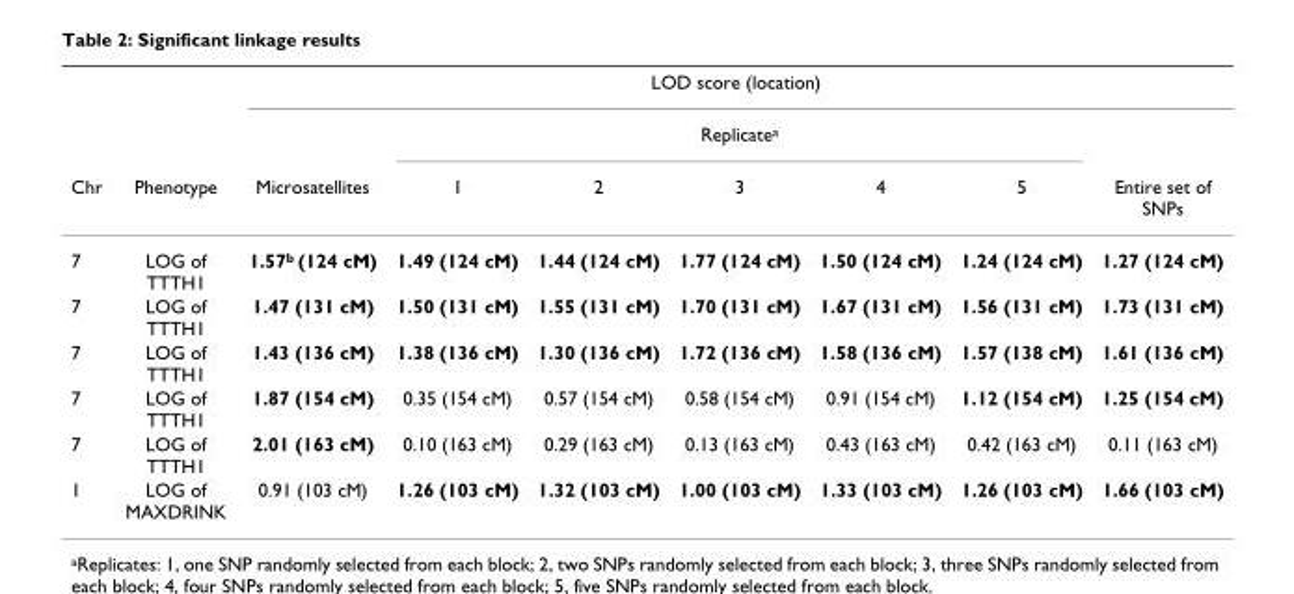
<table><thead><tr><td rowspan="3">Chr</td><td rowspan="3">Phenotype</td><td colspan="7">LOD score (location)</td></tr><tr><td rowspan="2">Microsatellites</td><td colspan="5">Replicatea</td><td rowspan="2">Entire set of SNPs</td></tr><tr><td>1</td><td>2</td><td>3</td><td>4</td><td>5</td></tr></thead><tbody><tr><td>7</td><td>LOG of TTTH1</td><td>1.57b (124 cM)</td><td>1.49 (124 cM)</td><td>1.44 (124 cM)</td><td>1.77 (124 cM)</td><td>1.50 (124 cM)</td><td>1.24 (124 cM)</td><td>1.27 (124 cM)</td></tr><tr><td>7</td><td>LOG of TTTH1</td><td>1.47 (131 cM)</td><td>1.50 (131 cM)</td><td>1.55 (131 cM)</td><td>1.70 (131 cM)</td><td>1.67 (131 cM)</td><td>1.56 (131 cM)</td><td>1.73 (131 cM)</td></tr><tr><td>7</td><td>LOG of TTTH1</td><td>1.43 (136 cM)</td><td>1.38 (136 cM)</td><td>1.30 (136 cM)</td><td>1.72 (136 cM)</td><td>1.58 (136 cM)</td><td>1.57 (138 cM)</td><td>1.61 (136 cM)</td></tr><tr><td>7</td><td>LOG of TTTH1</td><td>1.87 (154 cM)</td><td>0.35 (154 cM)</td><td>0.57 (154 cM)</td><td>0.58 (154 cM)</td><td>0.91 (154 cM)</td><td>1.12 (154 cM)</td><td>1.25 (154 cM)</td></tr><tr><td>7</td><td>LOG of TTTH1</td><td>2.01 (163 cM)</td><td>0.10 (163 cM)</td><td>0.29 (163 cM)</td><td>0.13 (163 cM)</td><td>0.43 (163 cM)</td><td>0.42 (163 cM)</td><td>0.11 (163 cM)</td></tr><tr><td>1</td><td>LOG of MAXDRINK</td><td>0.91 (103 cM)</td><td>1.26 (103 cM)</td><td>1.32 (103 cM)</td><td>1.00 (103 cM)</td><td>1.33 (103 cM)</td><td>1.26 (103 cM)</td><td>1.66 (103 cM)</td></tr></tbody></table>